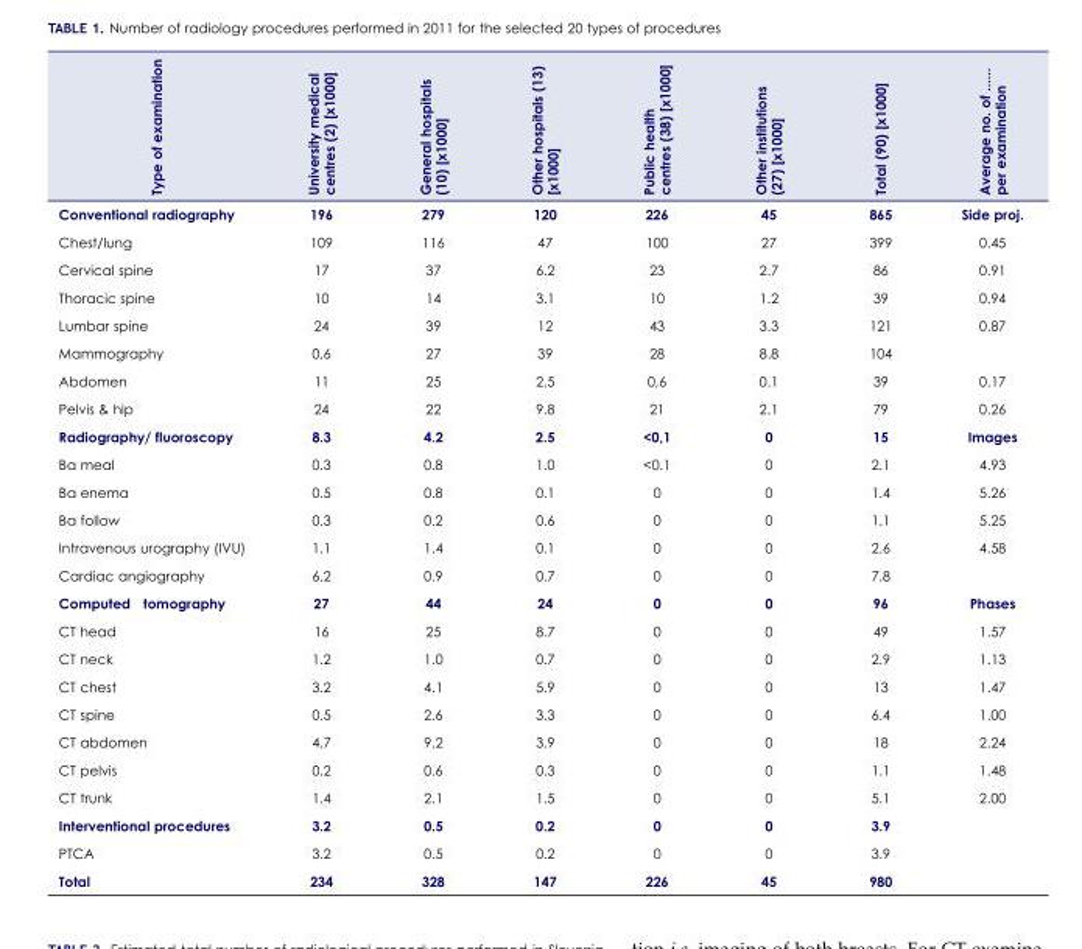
<table><thead><tr><td>Type of examination</td><td>University medical centres (2) [x1000]</td><td>General hospitals (10) [x1000]</td><td>Other hospitals (13) [x1000]</td><td>Public health centres (38) [x1000]</td><td>Other institutions (27) [x1000]</td><td>Total (90) [x1000]</td><td>Average no. of ...... per examination</td></tr></thead><tbody><tr><td>Conventional radiography</td><td>196</td><td>279</td><td>120</td><td>226</td><td>45</td><td>865</td><td>Side proj.</td></tr><tr><td>Chest/lung</td><td>109</td><td>116</td><td>47</td><td>100</td><td>27</td><td>399</td><td>0.45</td></tr><tr><td>Cervical spine</td><td>17</td><td>37</td><td>6.2</td><td>23</td><td>2.7</td><td>86</td><td>0.91</td></tr><tr><td>Thoracic spine</td><td>10</td><td>14</td><td>3.1</td><td>10</td><td>1.2</td><td>39</td><td>0.94</td></tr><tr><td>Lumbar spine</td><td>24</td><td>39</td><td>12</td><td>43</td><td>3.3</td><td>121</td><td>0.87</td></tr><tr><td>Mammography</td><td>0,6</td><td>27</td><td>39</td><td>28</td><td>8.8</td><td>104</td><td></td></tr><tr><td>Abdomen</td><td>11</td><td>25</td><td>2.5</td><td>0,6</td><td>0.1</td><td>39</td><td>0.17</td></tr><tr><td>Pelvis &amp; hip</td><td>24</td><td>22</td><td>9.8</td><td>21</td><td>2.1</td><td>79</td><td>0.26</td></tr><tr><td>Radiography/ fluoroscopy</td><td>8.3</td><td>4.2</td><td>2.5</td><td>&lt;0,1</td><td>0</td><td>15</td><td>Images</td></tr><tr><td>Ba meal</td><td>0.3</td><td>0.8</td><td>1.0</td><td>&lt;0.1</td><td>0</td><td>2.1</td><td>4.93</td></tr><tr><td>Ba enema</td><td>0.5</td><td>0.8</td><td>0.1</td><td>0</td><td>0</td><td>1.4</td><td>5.26</td></tr><tr><td>Ba follow</td><td>0.3</td><td>0.2</td><td>0.6</td><td>0</td><td>0</td><td>1.1</td><td>5.25</td></tr><tr><td>Intravenous urography (IVU)</td><td>1.1</td><td>1.4</td><td>0.1</td><td>0</td><td>0</td><td>2.6</td><td>4.58</td></tr><tr><td>Cardiac angiography</td><td>6.2</td><td>0.9</td><td>0.7</td><td>0</td><td>0</td><td>7.8</td><td></td></tr><tr><td>Computed tomography</td><td>27</td><td>44</td><td>24</td><td>0</td><td>0</td><td>96</td><td>Phases</td></tr><tr><td>CT head</td><td>16</td><td>25</td><td>8.7</td><td>0</td><td>0</td><td>49</td><td>1.57</td></tr><tr><td>CT neck</td><td>1.2</td><td>1.0</td><td>0.7</td><td>0</td><td>0</td><td>2.9</td><td>1.13</td></tr><tr><td>CT chest</td><td>3.2</td><td>4.1</td><td>5.9</td><td>0</td><td>0</td><td>13</td><td>1.47</td></tr><tr><td>CT spine</td><td>0.5</td><td>2.6</td><td>3.3</td><td>0</td><td>0</td><td>6.4</td><td>1.00</td></tr><tr><td>CT abdomen</td><td>4.7</td><td>9.2</td><td>3.9</td><td>0</td><td>0</td><td>18</td><td>2.24</td></tr><tr><td>CT pelvis</td><td>0.2</td><td>0.6</td><td>0.3</td><td>0</td><td>0</td><td>1.1</td><td>1.48</td></tr><tr><td>CT trunk</td><td>1.4</td><td>2.1</td><td>1.5</td><td>0</td><td>0</td><td>5.1</td><td>2.00</td></tr><tr><td>Interventional procedures</td><td>3.2</td><td>0.5</td><td>0.2</td><td>0</td><td>0</td><td>3.9</td><td></td></tr><tr><td>PTCA</td><td>3.2</td><td>0.5</td><td>0.2</td><td>0</td><td>0</td><td>3.9</td><td></td></tr><tr><td>Total</td><td>234</td><td>328</td><td>147</td><td>226</td><td>45</td><td>980</td><td></td></tr></tbody></table>